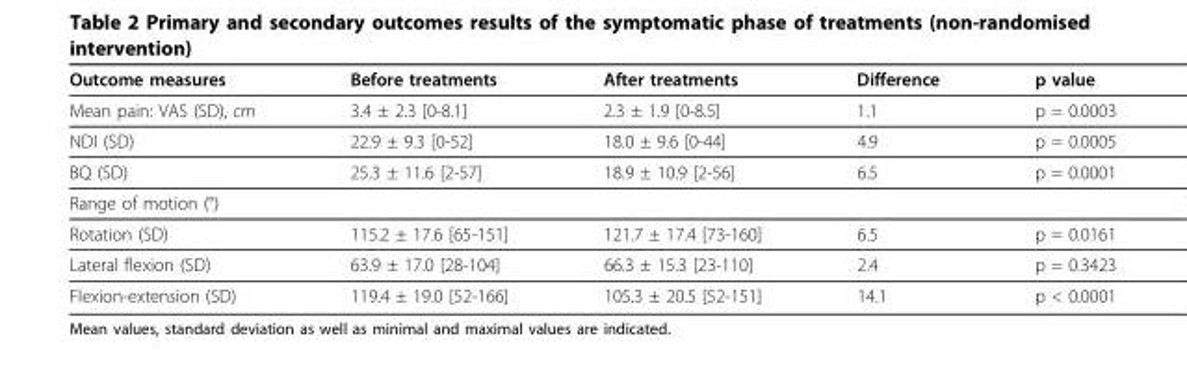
<table><thead><tr><td>Outcome measures</td><td>Before treatments</td><td>After treatments</td><td>Difference</td><td>p value</td></tr></thead><tbody><tr><td>Mean pain: VAS (SD), cm</td><td>3.4 ± 2.3 [0-8.1]</td><td>2.3 ± 1.9 [0-8.5]</td><td>1.1</td><td>p = 0.0003</td></tr><tr><td>NDI (SD)</td><td>22.9 ± 9.3 [0-52]</td><td>18.0 ± 9.6 [0-44]</td><td>4.9</td><td>p = 0.0005</td></tr><tr><td>BQ (SD)</td><td>25.3 ± 11.6 [2-57]</td><td>18.9 ± 10.9 [2-56]</td><td>6.5</td><td>p = 0.0001</td></tr><tr><td colspan="5">Range of motion (°)</td></tr><tr><td>Rotation (SD)</td><td>115.2 ± 17.6 [65-151]</td><td>121.7 ± 17.4 [73-160]</td><td>6.5</td><td>p = 0.0161</td></tr><tr><td>Lateral flexion (SD)</td><td>63.9 ± 17.0 [28-104]</td><td>66.3 ± 15.3 [23-110]</td><td>2.4</td><td>p = 0.3423</td></tr><tr><td>Flexion-extension (SD)</td><td>119.4 ± 19.0 [52-166]</td><td>105.3 ± 20.5 [52-151]</td><td>14.1</td><td>p &lt; 0.0001</td></tr></tbody></table>